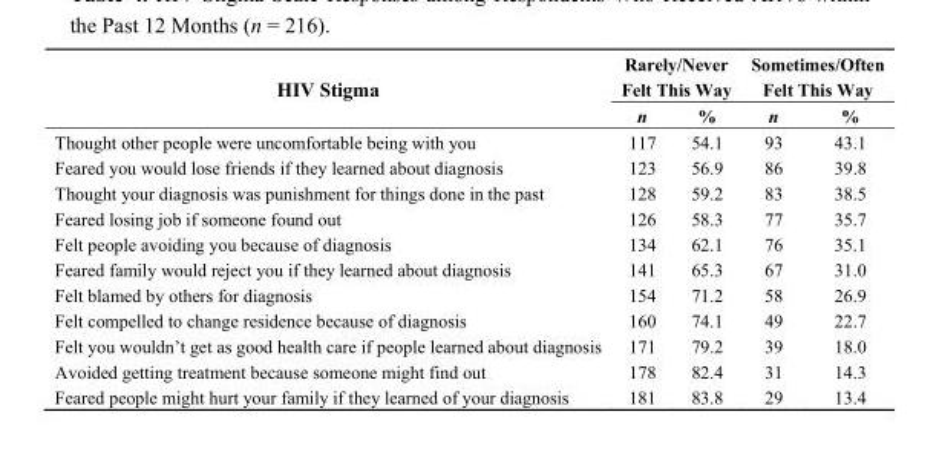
<table><thead><tr><td rowspan="3">HIV Stigma</td><td rowspan="2" colspan="2">Rarely/Never Felt This Way</td><td rowspan="2" colspan="2">Sometimes/Often Felt This Way</td></tr><tr></tr><tr><td>n</td><td>%</td><td>n</td><td>%</td></tr></thead><tbody><tr><td>Thought other people were uncomfortable being with you</td><td>117</td><td>54.1</td><td>93</td><td>43.1</td></tr><tr><td>Feared you would lose friends if they learned about diagnosis</td><td>123</td><td>56.9</td><td>86</td><td>39.8</td></tr><tr><td>Thought your diagnosis was punishment for things done in the past</td><td>128</td><td>59.2</td><td>83</td><td>38.5</td></tr><tr><td>Feared losing job if someone found out</td><td>126</td><td>58.3</td><td>77</td><td>35.7</td></tr><tr><td>Felt people avoiding you because of diagnosis</td><td>134</td><td>62.1</td><td>76</td><td>35.1</td></tr><tr><td>Feared family would reject you if they learned about diagnosis</td><td>141</td><td>65.3</td><td>67</td><td>31.0</td></tr><tr><td>Felt blamed by others for diagnosis</td><td>154</td><td>71.2</td><td>58</td><td>26.9</td></tr><tr><td>Felt compelled to change residence because of diagnosis</td><td>160</td><td>74.1</td><td>49</td><td>22.7</td></tr><tr><td>Felt you wouldn’t get as good health care if people learned about diagnosis</td><td>171</td><td>79.2</td><td>39</td><td>18.0</td></tr><tr><td>Avoided getting treatment because someone might find out</td><td>178</td><td>82.4</td><td>31</td><td>14.3</td></tr><tr><td>Feared people might hurt your family if they learned of your diagnosis</td><td>181</td><td>83.8</td><td>29</td><td>13.4</td></tr></tbody></table>